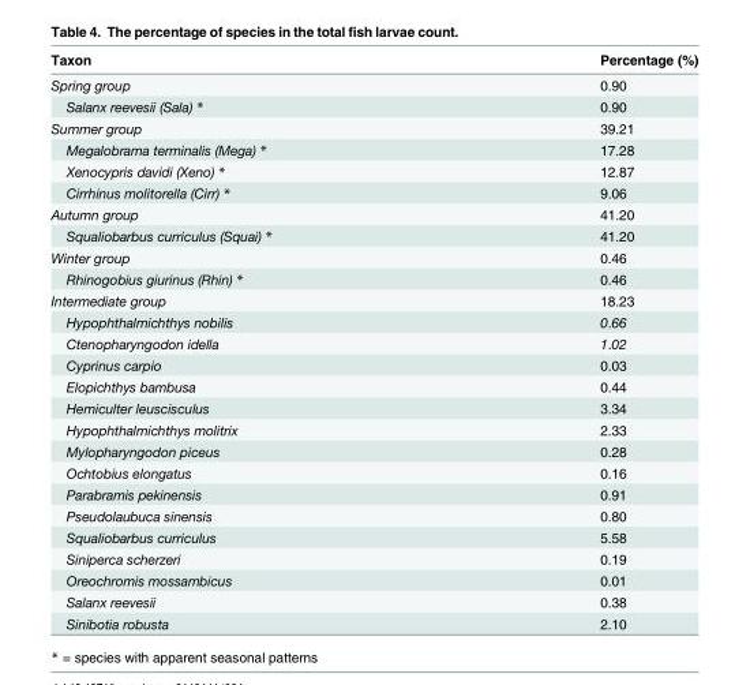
<table><thead><tr><td>Taxon</td><td>Percentage (%)</td></tr></thead><tbody><tr><td>Spring group</td><td>0.90</td></tr><tr><td>Salanx reevesii (Sala) *</td><td>0.90</td></tr><tr><td>Summer group</td><td>39.21</td></tr><tr><td>Megalobrama terminalis (Mega) *</td><td>17.28</td></tr><tr><td>Xenocypris davidi (Xeno) *</td><td>12.87</td></tr><tr><td>Cirrhinus molitorella (Cirr) *</td><td>9.06</td></tr><tr><td>Autumn group</td><td>41.20</td></tr><tr><td>Squaliobarbus curriculus (Squai) *</td><td>41.20</td></tr><tr><td>Winter group</td><td>0.46</td></tr><tr><td>Rhinogobius giurinus (Rhin) *</td><td>0.46</td></tr><tr><td>Intermediate group</td><td>18.23</td></tr><tr><td>Hypophthalmichthys nobilis</td><td>0.66</td></tr><tr><td>Ctenopharyngodon idella</td><td>1.02</td></tr><tr><td>Cyprinus carpio</td><td>0.03</td></tr><tr><td>Elopichthys bambusa</td><td>0.44</td></tr><tr><td>Hemiculter leuscisculus</td><td>3.34</td></tr><tr><td>Hypophthalmichthys molitrix</td><td>2.33</td></tr><tr><td>Mylopharyngodon piceus</td><td>0.28</td></tr><tr><td>Ochtobius elongatus</td><td>0.16</td></tr><tr><td>Parabramis pekinensis</td><td>0.91</td></tr><tr><td>Pseudolaubuca sinensis</td><td>0.80</td></tr><tr><td>Squaliobarbus curriculus</td><td>5.58</td></tr><tr><td>Siniperca scherzeri</td><td>0.19</td></tr><tr><td>Oreochromis mossambicus</td><td>0.01</td></tr><tr><td>Salanx reevesii</td><td>0.38</td></tr><tr><td>Sinibotia robusta</td><td>2.10</td></tr></tbody></table>